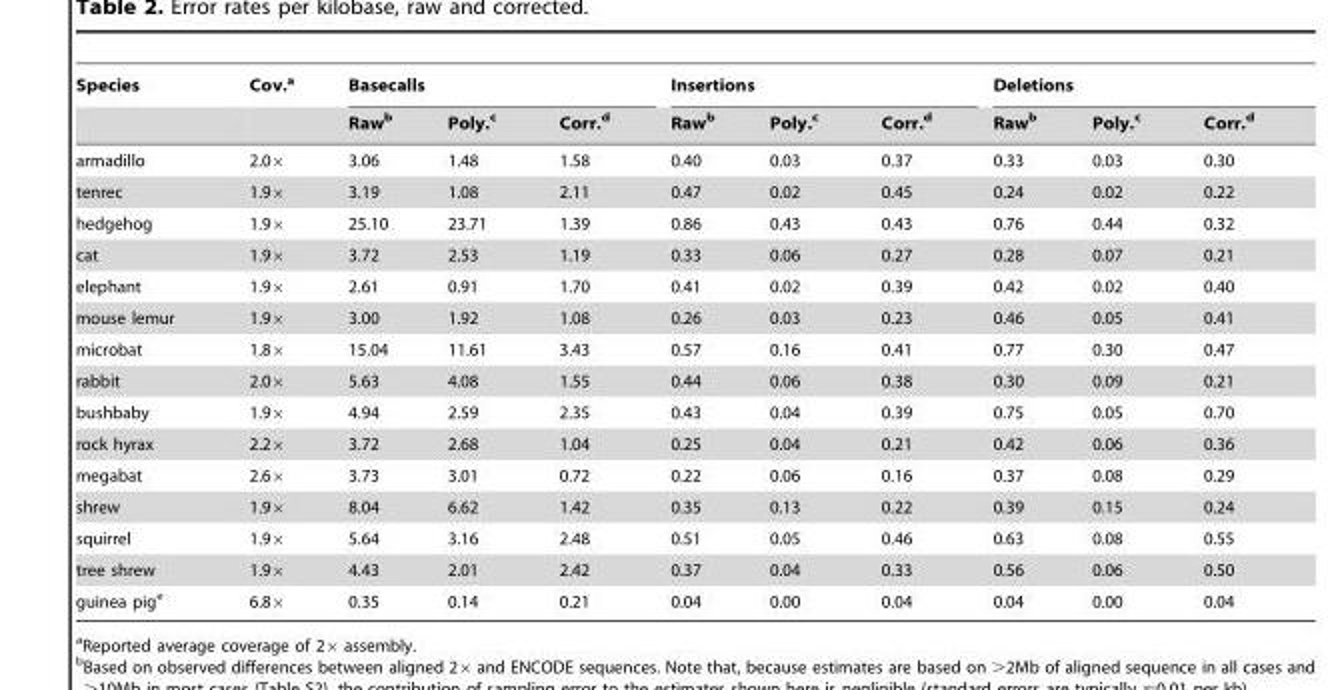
<table><thead><tr><td rowspan="2">Species</td><td rowspan="2">Cov.<sup>a</sup></td><td colspan="3">Basecalls</td><td colspan="3">Insertions</td><td colspan="3">Deletions</td></tr><tr><td>Raw<sup>b</sup></td><td>Poly.<sup>c</sup></td><td>Corr.<sup>d</sup></td><td>Raw<sup>b</sup></td><td>Poly.<sup>c</sup></td><td>Corr.<sup>d</sup></td><td>Raw<sup>b</sup></td><td>Poly.<sup>c</sup></td><td>Corr.<sup>d</sup></td></tr></thead><tbody><tr><td>armadillo</td><td>2.0×</td><td>3.06</td><td>1.48</td><td>1.58</td><td>0.40</td><td>0.03</td><td>0.37</td><td>0.33</td><td>0.03</td><td>0.30</td></tr><tr><td>tenrec</td><td>1.9×</td><td>3.19</td><td>1.08</td><td>2.11</td><td>0.47</td><td>0.02</td><td>0.45</td><td>0.24</td><td>0.02</td><td>0.22</td></tr><tr><td>hedgehog</td><td>1.9×</td><td>25.10</td><td>23.71</td><td>1.39</td><td>0.86</td><td>0.43</td><td>0.43</td><td>0.76</td><td>0.44</td><td>0.32</td></tr><tr><td>cat</td><td>1.9×</td><td>3.72</td><td>2.53</td><td>1.19</td><td>0.33</td><td>0.06</td><td>0.27</td><td>0.28</td><td>0.07</td><td>0.21</td></tr><tr><td>elephant</td><td>1.9×</td><td>2.61</td><td>0.91</td><td>1.70</td><td>0.41</td><td>0.02</td><td>0.39</td><td>0.42</td><td>0.02</td><td>0.40</td></tr><tr><td>mouse lemur</td><td>1.9×</td><td>3.00</td><td>1.92</td><td>1.08</td><td>0.26</td><td>0.03</td><td>0.23</td><td>0.46</td><td>0.05</td><td>0.41</td></tr><tr><td>microbat</td><td>1.8×</td><td>15.04</td><td>11.61</td><td>3.43</td><td>0.57</td><td>0.16</td><td>0.41</td><td>0.77</td><td>0.30</td><td>0.47</td></tr><tr><td>rabbit</td><td>2.0×</td><td>5.63</td><td>4.08</td><td>1.55</td><td>0.44</td><td>0.06</td><td>0.38</td><td>0.30</td><td>0.09</td><td>0.21</td></tr><tr><td>bushbaby</td><td>1.9×</td><td>4.94</td><td>2.59</td><td>2.35</td><td>0.43</td><td>0.04</td><td>0.39</td><td>0.75</td><td>0.05</td><td>0.70</td></tr><tr><td>rock hyrax</td><td>2.2×</td><td>3.72</td><td>2.68</td><td>1.04</td><td>0.25</td><td>0.04</td><td>0.21</td><td>0.42</td><td>0.06</td><td>0.36</td></tr><tr><td>megabat</td><td>2.6×</td><td>3.73</td><td>3.01</td><td>0.72</td><td>0.22</td><td>0.06</td><td>0.16</td><td>0.37</td><td>0.08</td><td>0.29</td></tr><tr><td>shrew</td><td>1.9×</td><td>8.04</td><td>6.62</td><td>1.42</td><td>0.35</td><td>0.13</td><td>0.22</td><td>0.39</td><td>0.15</td><td>0.24</td></tr><tr><td>squirrel</td><td>1.9×</td><td>5.64</td><td>3.16</td><td>2.48</td><td>0.51</td><td>0.05</td><td>0.46</td><td>0.63</td><td>0.08</td><td>0.55</td></tr><tr><td>tree shrew</td><td>1.9×</td><td>4.43</td><td>2.01</td><td>2.42</td><td>0.37</td><td>0.04</td><td>0.33</td><td>0.56</td><td>0.06</td><td>0.50</td></tr><tr><td>guinea pig<sup>e</sup></td><td>6.8×</td><td>0.35</td><td>0.14</td><td>0.21</td><td>0.04</td><td>0.00</td><td>0.04</td><td>0.04</td><td>0.00</td><td>0.04</td></tr></tbody></table>